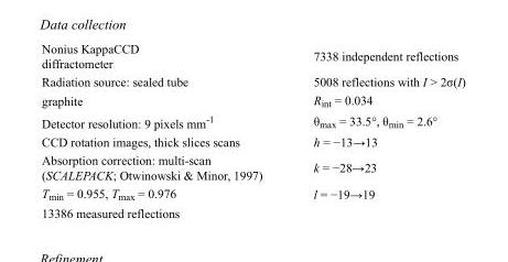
<table><tbody><tr><td>Nonius KappaCCD diffractometer</td><td>7338 independent reflections</td></tr><tr><td>Radiation source: sealed tube</td><td>5008 reflections with I &gt; 2σ(I)</td></tr><tr><td>graphite</td><td>R<sub>int</sub> = 0.034</td></tr><tr><td>Detector resolution: 9 pixels mm<sup>-1</sup></td><td>θ<sub>max</sub> = 33.5°, θ<sub>min</sub> = 2.6°</td></tr><tr><td>CCD rotation images, thick slices scans</td><td>h = −13→13</td></tr><tr><td>Absorption correction: multi-scan (SCALEPACK; Otwinowski &amp; Minor, 1997)</td><td>k = −28→23</td></tr><tr><td>T<sub>min</sub> = 0.955, T<sub>max</sub> = 0.976</td><td>l = −19→19</td></tr><tr><td>13386 measured reflections</td><td></td></tr></tbody></table>